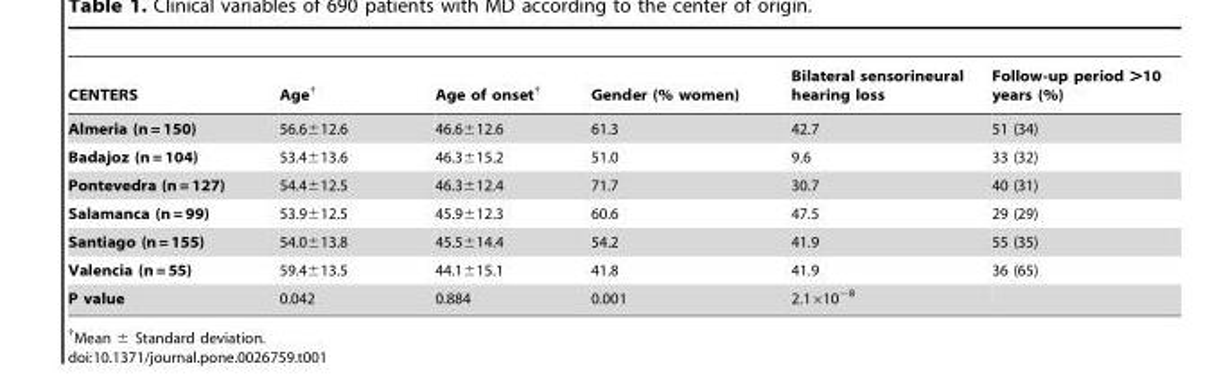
<table><thead><tr><td>CENTERS</td><td>Age†</td><td>Age of onset†</td><td>Gender (% women)</td><td>Bilateral sensorineural hearing loss</td><td>Follow-up period &gt;10 years (%)</td></tr></thead><tbody><tr><td>Almeria (n = 150)</td><td>56.6±12.6</td><td>46.6±12.6</td><td>61.3</td><td>42.7</td><td>51 (34)</td></tr><tr><td>Badajoz (n = 104)</td><td>53.4±13.6</td><td>46.3±15.2</td><td>51.0</td><td>9.6</td><td>33 (32)</td></tr><tr><td>Pontevedra (n = 127)</td><td>54.4±12.5</td><td>46.3±12.4</td><td>71.7</td><td>30.7</td><td>40 (31)</td></tr><tr><td>Salamanca (n = 99)</td><td>53.9±12.5</td><td>45.9±12.3</td><td>60.6</td><td>47.5</td><td>29 (29)</td></tr><tr><td>Santiago (n = 155)</td><td>54.0±13.8</td><td>45.5±14.4</td><td>54.2</td><td>41.9</td><td>55 (35)</td></tr><tr><td>Valencia (n = 55)</td><td>59.4±13.5</td><td>44.1±15.1</td><td>41.8</td><td>41.9</td><td>36 (65)</td></tr><tr><td>P value</td><td>0.042</td><td>0.884</td><td>0.001</td><td>2.1×10<sup>−8</sup></td><td></td></tr></tbody></table>